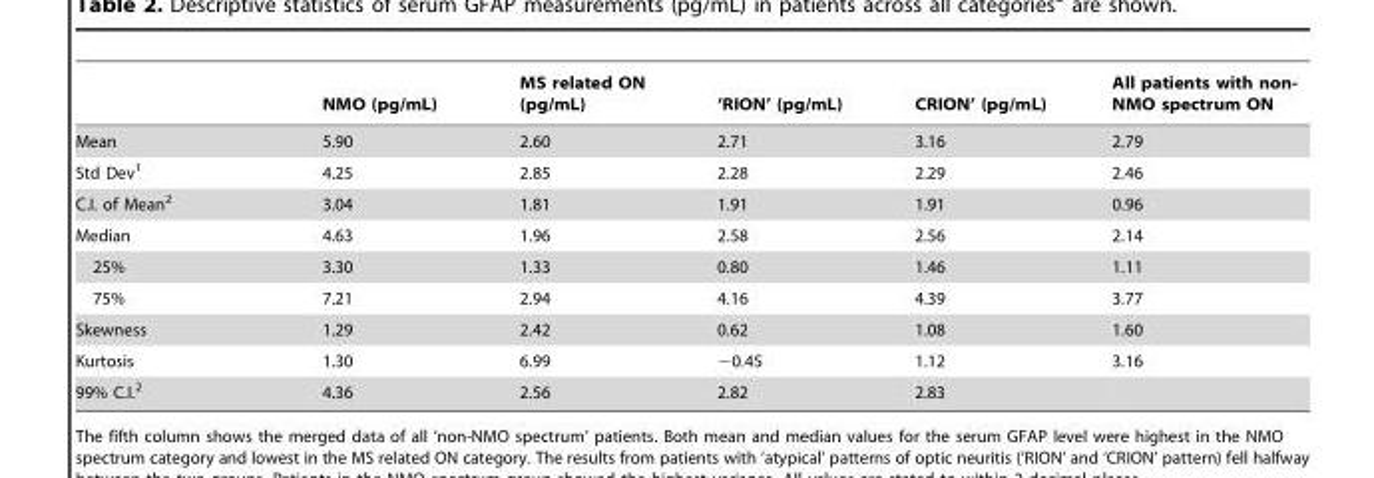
<table><thead><tr><td></td><td>NMO (pg/mL)</td><td>MS related ON (pg/mL)</td><td>‘RION’ (pg/mL)</td><td>CRION’ (pg/mL)</td><td>All patients with non- NMO spectrum ON</td></tr></thead><tbody><tr><td>Mean</td><td>5.90</td><td>2.60</td><td>2.71</td><td>3.16</td><td>2.79</td></tr><tr><td>Std Dev<sup>1</sup></td><td>4.25</td><td>2.85</td><td>2.28</td><td>2.29</td><td>2.46</td></tr><tr><td>C.I. of Mean<sup>2</sup></td><td>3.04</td><td>1.81</td><td>1.91</td><td>1.91</td><td>0.96</td></tr><tr><td>Median</td><td>4.63</td><td>1.96</td><td>2.58</td><td>2.56</td><td>2.14</td></tr><tr><td>25%</td><td>3.30</td><td>1.33</td><td>0.80</td><td>1.46</td><td>1.11</td></tr><tr><td>75%</td><td>7.21</td><td>2.94</td><td>4.16</td><td>4.39</td><td>3.77</td></tr><tr><td>Skewness</td><td>1.29</td><td>2.42</td><td>0.62</td><td>1.08</td><td>1.60</td></tr><tr><td>Kurtosis</td><td>1.30</td><td>6.99</td><td>−0.45</td><td>1.12</td><td>3.16</td></tr><tr><td>99% C.I.<sup>2</sup></td><td>4.36</td><td>2.56</td><td>2.82</td><td>2.83</td><td></td></tr></tbody></table>